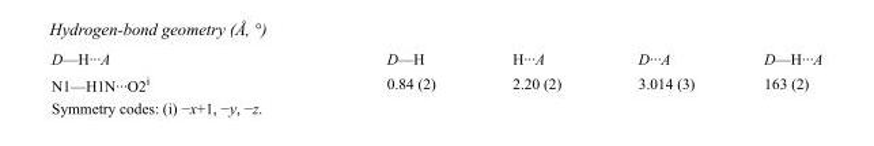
<table><tbody><tr><td>D—H···A</td><td>D—H</td><td>H···A</td><td>D···A</td><td>D—H···A</td></tr><tr><td>N1—H1N···O2<sup>i</sup></td><td>0.84 (2)</td><td>2.20 (2)</td><td>3.014 (3)</td><td>163 (2)</td></tr></tbody></table>